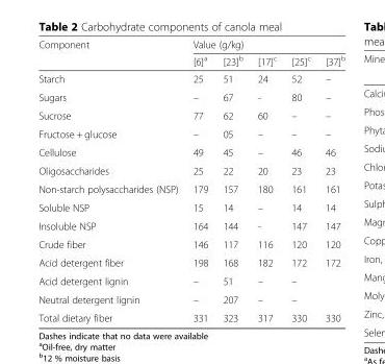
<table><thead><tr><td rowspan="2">Component</td><td colspan="5">Value (g/kg)</td></tr><tr><td>[6]<sup>a</sup></td><td>[23]<sup>b</sup></td><td>[17]<sup>c</sup></td><td>[25]<sup>c</sup></td><td>[37]<sup>b</sup></td></tr></thead><tbody><tr><td>Starch</td><td>25</td><td>51</td><td>24</td><td>52</td><td>–</td></tr><tr><td>Sugars</td><td>–</td><td>67</td><td>-</td><td>80</td><td>–</td></tr><tr><td>Sucrose</td><td>77</td><td>62</td><td>60</td><td>–</td><td>–</td></tr><tr><td>Fructose + glucose</td><td>–</td><td>05</td><td>–</td><td>–</td><td>–</td></tr><tr><td>Cellulose</td><td>49</td><td>45</td><td>–</td><td>46</td><td>46</td></tr><tr><td>Oligosaccharides</td><td>25</td><td>22</td><td>20</td><td>23</td><td>23</td></tr><tr><td>Non-starch polysaccharides (NSP)</td><td>179</td><td>157</td><td>180</td><td>161</td><td>161</td></tr><tr><td>Soluble NSP</td><td>15</td><td>14</td><td>–</td><td>14</td><td>14</td></tr><tr><td>Insoluble NSP</td><td>164</td><td>144</td><td>-</td><td>147</td><td>147</td></tr><tr><td>Crude fiber</td><td>146</td><td>117</td><td>116</td><td>120</td><td>120</td></tr><tr><td>Acid detergent fiber</td><td>198</td><td>168</td><td>182</td><td>172</td><td>172</td></tr><tr><td>Acid detergent lignin</td><td>–</td><td>51</td><td>–</td><td>–</td><td></td></tr><tr><td>Neutral detergent lignin</td><td>–</td><td>207</td><td>–</td><td>–</td><td></td></tr><tr><td>Total dietary fiber</td><td>331</td><td>323</td><td>317</td><td>330</td><td>330</td></tr></tbody></table>